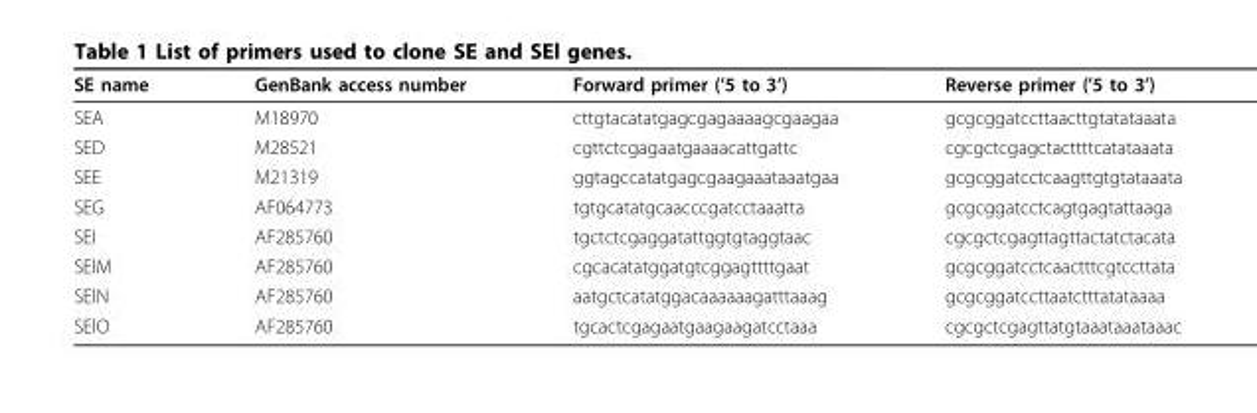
<table><thead><tr><td>SE name</td><td>GenBank access number</td><td>Forward primer (’5 to 3’)</td><td>Reverse primer (’5 to 3’)</td></tr></thead><tbody><tr><td>SEA</td><td>M18970</td><td>cttgtacatatgagcgagaaaagcgaagaa</td><td>gcgcggatccttaacttgtatataaata</td></tr><tr><td>SED</td><td>M28521</td><td>cgttctcgagaatgaaaacattgattc</td><td>cgcgctcgagctacttttcatataaata</td></tr><tr><td>SEE</td><td>M21319</td><td>ggtagccatatgagcgaagaaataaatgaa</td><td>gcgcggatcctcaagttgtgtataaata</td></tr><tr><td>SEG</td><td>AF064773</td><td>tgtgcatatgcaacccgatcctaaatta</td><td>gcgcggatcctcagtgagtattaaga</td></tr><tr><td>SEI</td><td>AF285760</td><td>tgctctcgaggatattggtgtaggtaac</td><td>cgcgctcgagttagttactatctacata</td></tr><tr><td>SElM</td><td>AF285760</td><td>cgcacatatggatgtcggagttttgaat</td><td>gcgcggatcctcaactttcgtccttata</td></tr><tr><td>SElN</td><td>AF285760</td><td>aatgctcatatggacaaaaaagatttaaag</td><td>gcgcggatccttaatctttatataaaa</td></tr><tr><td>SElO</td><td>AF285760</td><td>tgcactcgagaatgaagaagatcctaaa</td><td>cgcgctcgagttatgtaaataaataaac</td></tr></tbody></table>